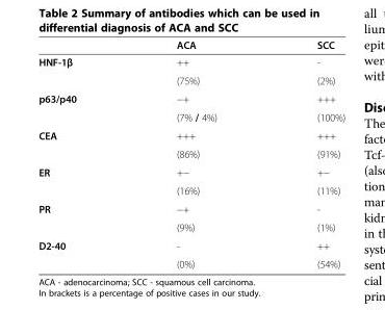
<table><thead><tr><td></td><td>ACA</td><td>SCC</td></tr></thead><tbody><tr><td rowspan="2">HNF-1β</td><td>++</td><td>-</td></tr><tr><td>(75%)</td><td>(2%)</td></tr><tr><td rowspan="2">p63/p40</td><td>−+</td><td>+++</td></tr><tr><td>(7% / 4%)</td><td>(100%)</td></tr><tr><td rowspan="2">CEA</td><td>+++</td><td>+++</td></tr><tr><td>(86%)</td><td>(91%)</td></tr><tr><td rowspan="2">ER</td><td>+−</td><td>+−</td></tr><tr><td>(16%)</td><td>(11%)</td></tr><tr><td rowspan="2">PR</td><td>−+</td><td>-</td></tr><tr><td>(9%)</td><td>(1%)</td></tr><tr><td rowspan="2">D2-40</td><td>-</td><td>++</td></tr><tr><td>(0%)</td><td>(54%)</td></tr></tbody></table>